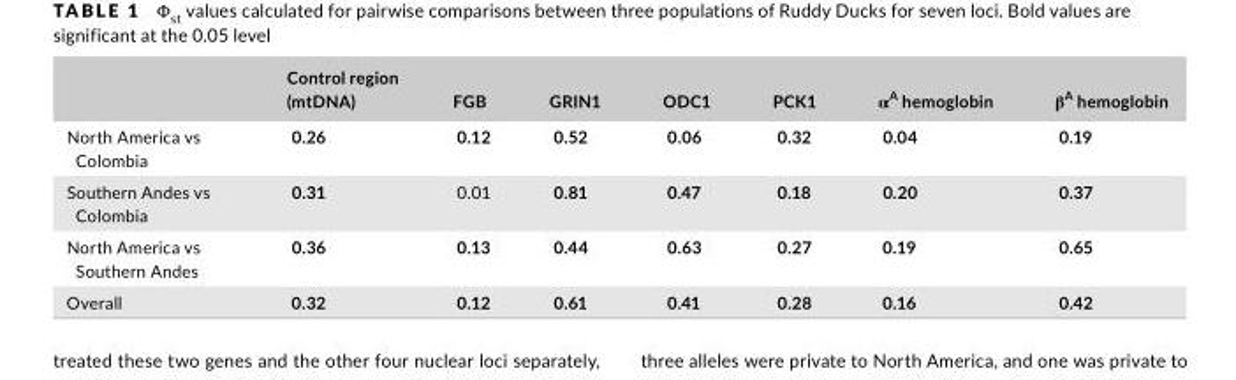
<table><thead><tr><td></td><td>Control region (mtDNA)</td><td>FGB</td><td>GRIN1</td><td>ODC1</td><td>PCK1</td><td>α<sup>A</sup> hemoglobin</td><td>β<sup>A</sup> hemoglobin</td></tr></thead><tbody><tr><td>North America vs Colombia</td><td>0.26</td><td>0.12</td><td>0.52</td><td>0.06</td><td>0.32</td><td>0.04</td><td>0.19</td></tr><tr><td>Southern Andes vs Colombia</td><td>0.31</td><td>0.01</td><td>0.81</td><td>0.47</td><td>0.18</td><td>0.20</td><td>0.37</td></tr><tr><td>North America vs Southern Andes</td><td>0.36</td><td>0.13</td><td>0.44</td><td>0.63</td><td>0.27</td><td>0.19</td><td>0.65</td></tr><tr><td>Overall</td><td>0.32</td><td>0.12</td><td>0.61</td><td>0.41</td><td>0.28</td><td>0.16</td><td>0.42</td></tr></tbody></table>